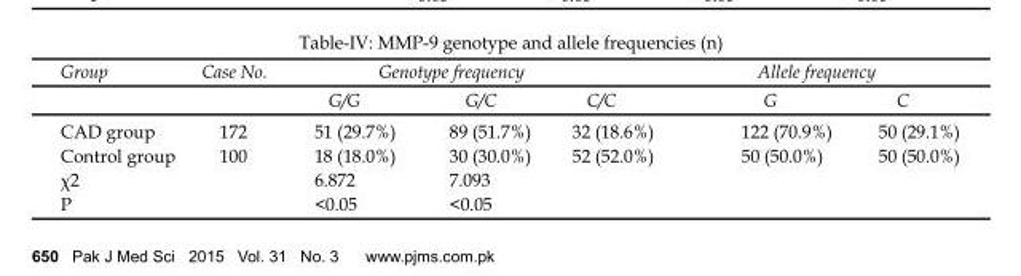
<table><thead><tr><td rowspan="2">Group</td><td rowspan="2">Case No.</td><td colspan="3">Genotype frequency</td><td colspan="2">Allele frequency</td></tr><tr><td>G/G</td><td>G/C</td><td>C/C</td><td>G</td><td>C</td></tr></thead><tbody><tr><td>CAD group</td><td>172</td><td>51 (29.7%)</td><td>89 (51.7%)</td><td>32 (18.6%)</td><td>122 (70.9%)</td><td>50 (29.1%)</td></tr><tr><td>Control group</td><td>100</td><td>18 (18.0%)</td><td>30 (30.0%)</td><td>52 (52.0%)</td><td>50 (50.0%)</td><td>50 (50.0%)</td></tr><tr><td>χ<sup>2</sup></td><td></td><td>6.872</td><td>7.093</td><td></td><td></td><td></td></tr><tr><td>P</td><td></td><td>&lt;0.05</td><td>&lt;0.05</td><td></td><td></td><td></td></tr></tbody></table>